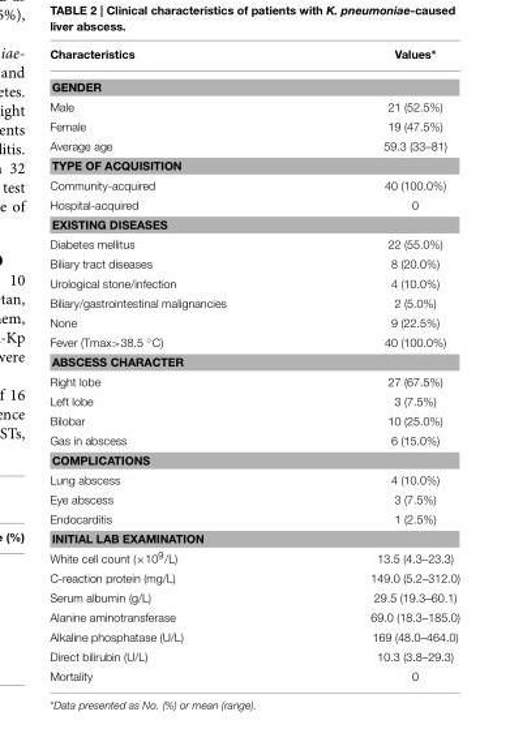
<table><thead><tr><td>Characteristics</td><td>Values*</td></tr></thead><tbody><tr><td colspan="2">GENDER</td></tr><tr><td>Male</td><td>21 (52.5%)</td></tr><tr><td>Female</td><td>19 (47.5%)</td></tr><tr><td>Average age</td><td>59.3 (33–81)</td></tr><tr><td colspan="2">TYPE OF ACQUISITION</td></tr><tr><td>Community-acquired</td><td>40 (100.0%)</td></tr><tr><td>Hospital-acquired</td><td>0</td></tr><tr><td colspan="2">EXISTING DISEASES</td></tr><tr><td>Diabetes mellitus</td><td>22 (55.0%)</td></tr><tr><td>Biliary tract diseases</td><td>8 (20.0%)</td></tr><tr><td>Urological stone/infection</td><td>4 (10.0%)</td></tr><tr><td>Biliary/gastrointestinal malignancies</td><td>2 (5.0%)</td></tr><tr><td>None</td><td>9 (22.5%)</td></tr><tr><td>Fever (Tmax&gt;38.5 ◦C)</td><td>40 (100.0%)</td></tr><tr><td colspan="2">ABSCESS CHARACTER</td></tr><tr><td>Right lobe</td><td>27 (67.5%)</td></tr><tr><td>Left lobe</td><td>3 (7.5%)</td></tr><tr><td>Bilobar</td><td>10 (25.0%)</td></tr><tr><td>Gas in abscess</td><td>6 (15.0%)</td></tr><tr><td colspan="2">COMPLICATIONS</td></tr><tr><td>Lung abscess</td><td>4 (10.0%)</td></tr><tr><td>Eye abscess</td><td>3 (7.5%)</td></tr><tr><td>Endocarditis</td><td>1 (2.5%)</td></tr><tr><td colspan="2">INITIAL LAB EXAMINATION</td></tr><tr><td>White cell count (×10<sup>9</sup>/L)</td><td>13.5 (4.3–23.3)</td></tr><tr><td>C-reaction protein (mg/L)</td><td>149.0 (5.2–312.0)</td></tr><tr><td>Serum albumin (g/L)</td><td>29.5 (19.3–60.1)</td></tr><tr><td>Alanine aminotransferase</td><td>69.0 (18.3–185.0)</td></tr><tr><td>Alkaline phosphatase (U/L)</td><td>169 (48.0–464.0)</td></tr><tr><td>Direct bilirubin (U/L)</td><td>10.3 (3.8–29.3)</td></tr><tr><td>Mortality</td><td>0</td></tr></tbody></table>